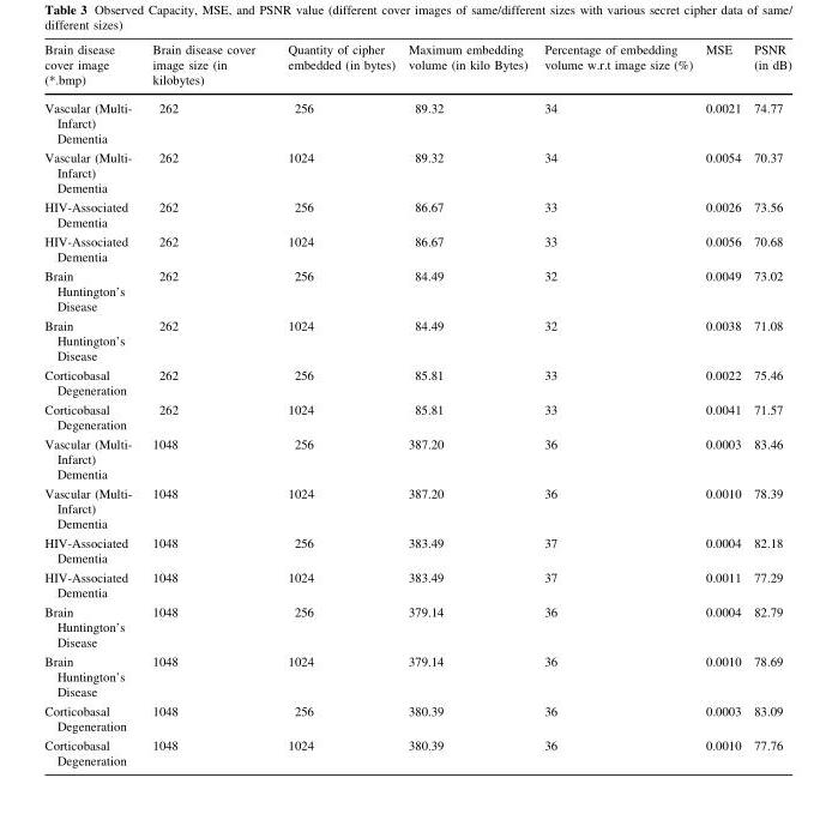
<table><thead><tr><td>Brain disease cover image (*.bmp)</td><td>Brain disease cover image size (in kilobytes)</td><td>Quantity of cipher embedded (in bytes)</td><td>Maximum embedding volume (in kilo Bytes)</td><td>Percentage of embedding volume w.r.t image size (%)</td><td>MSE</td><td>PSNR (in dB)</td></tr></thead><tbody><tr><td>Vascular (Multi- Infarct) Dementia</td><td>262</td><td>256</td><td>89.32</td><td>34</td><td>0.0021</td><td>74.77</td></tr><tr><td>Vascular (Multi- Infarct) Dementia</td><td>262</td><td>1024</td><td>89.32</td><td>34</td><td>0.0054</td><td>70.37</td></tr><tr><td>HIV-Associated Dementia</td><td>262</td><td>256</td><td>86.67</td><td>33</td><td>0.0026</td><td>73.56</td></tr><tr><td>HIV-Associated Dementia</td><td>262</td><td>1024</td><td>86.67</td><td>33</td><td>0.0056</td><td>70.68</td></tr><tr><td>Brain Huntington’s Disease</td><td>262</td><td>256</td><td>84.49</td><td>32</td><td>0.0049</td><td>73.02</td></tr><tr><td>Brain Huntington’s Disease</td><td>262</td><td>1024</td><td>84.49</td><td>32</td><td>0.0038</td><td>71.08</td></tr><tr><td>Corticobasal Degeneration</td><td>262</td><td>256</td><td>85.81</td><td>33</td><td>0.0022</td><td>75.46</td></tr><tr><td>Corticobasal Degeneration</td><td>262</td><td>1024</td><td>85.81</td><td>33</td><td>0.0041</td><td>71.57</td></tr><tr><td>Vascular (Multi- Infarct) Dementia</td><td>1048</td><td>256</td><td>387.20</td><td>36</td><td>0.0003</td><td>83.46</td></tr><tr><td>Vascular (Multi- Infarct) Dementia</td><td>1048</td><td>1024</td><td>387.20</td><td>36</td><td>0.0010</td><td>78.39</td></tr><tr><td>HIV-Associated Dementia</td><td>1048</td><td>256</td><td>383.49</td><td>37</td><td>0.0004</td><td>82.18</td></tr><tr><td>HIV-Associated Dementia</td><td>1048</td><td>1024</td><td>383.49</td><td>37</td><td>0.0011</td><td>77.29</td></tr><tr><td>Brain Huntington’s Disease</td><td>1048</td><td>256</td><td>379.14</td><td>36</td><td>0.0004</td><td>82.79</td></tr><tr><td>Brain Huntington’s Disease</td><td>1048</td><td>1024</td><td>379.14</td><td>36</td><td>0.0010</td><td>78.69</td></tr><tr><td>Corticobasal Degeneration</td><td>1048</td><td>256</td><td>380.39</td><td>36</td><td>0.0003</td><td>83.09</td></tr><tr><td>Corticobasal Degeneration</td><td>1048</td><td>1024</td><td>380.39</td><td>36</td><td>0.0010</td><td>77.76</td></tr></tbody></table>